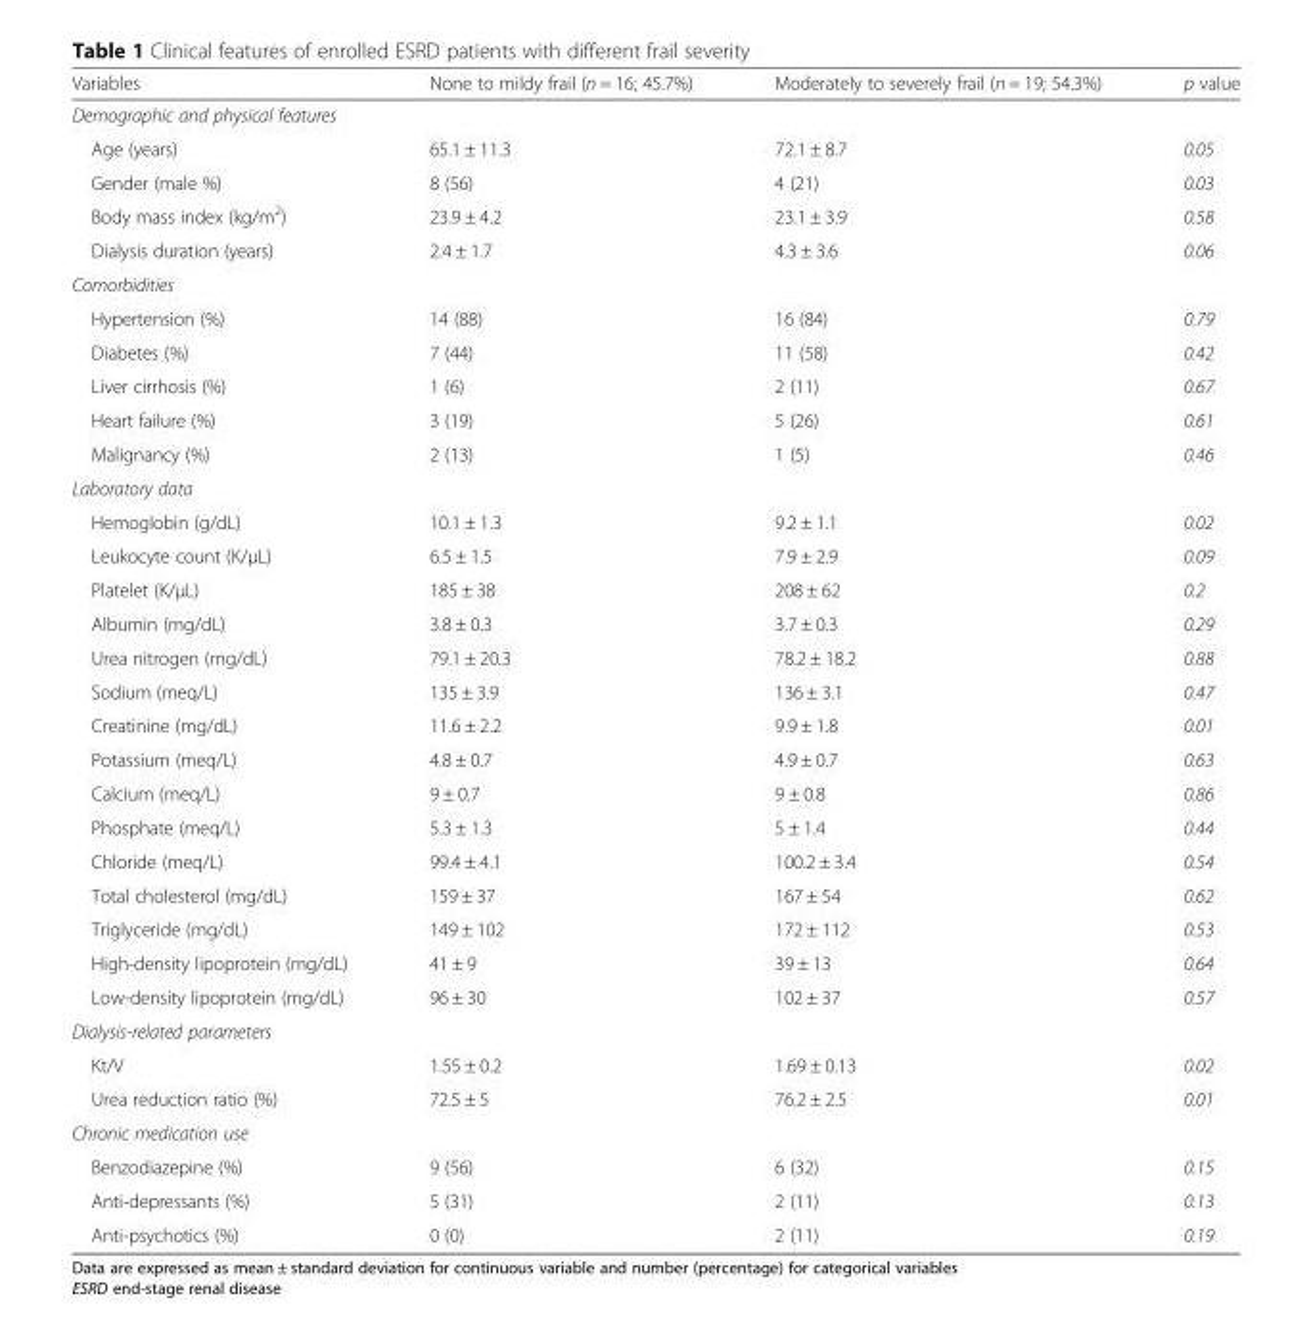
<table><thead><tr><td>Variables</td><td>None to mildy frail (n = 16; 45.7%)</td><td>Moderately to severely frail (n = 19; 54.3%)</td><td>p value</td></tr></thead><tbody><tr><td colspan="4">Demographic and physical features</td></tr><tr><td>Age (years)</td><td>65.1 ± 11.3</td><td>72.1 ± 8.7</td><td>0.05</td></tr><tr><td>Gender (male %)</td><td>8 (56)</td><td>4 (21)</td><td>0.03</td></tr><tr><td>Body mass index (kg/m<sup>2</sup>)</td><td>23.9 ± 4.2</td><td>23.1 ± 3.9</td><td>0.58</td></tr><tr><td>Dialysis duration (years)</td><td>2.4 ± 1.7</td><td>4.3 ± 3.6</td><td>0.06</td></tr><tr><td colspan="4">Comorbidities</td></tr><tr><td>Hypertension (%)</td><td>14 (88)</td><td>16 (84)</td><td>0.79</td></tr><tr><td>Diabetes (%)</td><td>7 (44)</td><td>11 (58)</td><td>0.42</td></tr><tr><td>Liver cirrhosis (%)</td><td>1 (6)</td><td>2 (11)</td><td>0.67</td></tr><tr><td>Heart failure (%)</td><td>3 (19)</td><td>5 (26)</td><td>0.61</td></tr><tr><td>Malignancy (%)</td><td>2 (13)</td><td>1 (5)</td><td>0.46</td></tr><tr><td colspan="4">Laboratory data</td></tr><tr><td>Hemoglobin (g/dL)</td><td>10.1 ± 1.3</td><td>9.2 ± 1.1</td><td>0.02</td></tr><tr><td>Leukocyte count (K/μL)</td><td>6.5 ± 1.5</td><td>7.9 ± 2.9</td><td>0.09</td></tr><tr><td>Platelet (K/μL)</td><td>185 ± 38</td><td>208 ± 62</td><td>0.2</td></tr><tr><td>Albumin (mg/dL)</td><td>3.8 ± 0.3</td><td>3.7 ± 0.3</td><td>0.29</td></tr><tr><td>Urea nitrogen (mg/dL)</td><td>79.1 ± 20.3</td><td>78.2 ± 18.2</td><td>0.88</td></tr><tr><td>Sodium (meq/L)</td><td>135 ± 3.9</td><td>136 ± 3.1</td><td>0.47</td></tr><tr><td>Creatinine (mg/dL)</td><td>11.6 ± 2.2</td><td>9.9 ± 1.8</td><td>0.01</td></tr><tr><td>Potassium (meq/L)</td><td>4.8 ± 0.7</td><td>4.9 ± 0.7</td><td>0.63</td></tr><tr><td>Calcium (meq/L)</td><td>9 ± 0.7</td><td>9 ± 0.8</td><td>0.86</td></tr><tr><td>Phosphate (meq/L)</td><td>5.3 ± 1.3</td><td>5 ± 1.4</td><td>0.44</td></tr><tr><td>Chloride (meq/L)</td><td>99.4 ± 4.1</td><td>100.2 ± 3.4</td><td>0.54</td></tr><tr><td>Total cholesterol (mg/dL)</td><td>159 ± 37</td><td>167 ± 54</td><td>0.62</td></tr><tr><td>Triglyceride (mg/dL)</td><td>149 ± 102</td><td>172 ± 112</td><td>0.53</td></tr><tr><td>High-density lipoprotein (mg/dL)</td><td>41 ± 9</td><td>39 ± 13</td><td>0.64</td></tr><tr><td>Low-density lipoprotein (mg/dL)</td><td>96 ± 30</td><td>102 ± 37</td><td>0.57</td></tr><tr><td colspan="4">Dialysis-related parameters</td></tr><tr><td>Kt/V</td><td>1.55 ± 0.2</td><td>1.69 ± 0.13</td><td>0.02</td></tr><tr><td>Urea reduction ratio (%)</td><td>72.5 ± 5</td><td>76.2 ± 2.5</td><td>0.01</td></tr><tr><td colspan="4">Chronic medication use</td></tr><tr><td>Benzodiazepine (%)</td><td>9 (56)</td><td>6 (32)</td><td>0.15</td></tr><tr><td>Anti-depressants (%)</td><td>5 (31)</td><td>2 (11)</td><td>0.13</td></tr><tr><td>Anti-psychotics (%)</td><td>0 (0)</td><td>2 (11)</td><td>0.19</td></tr></tbody></table>